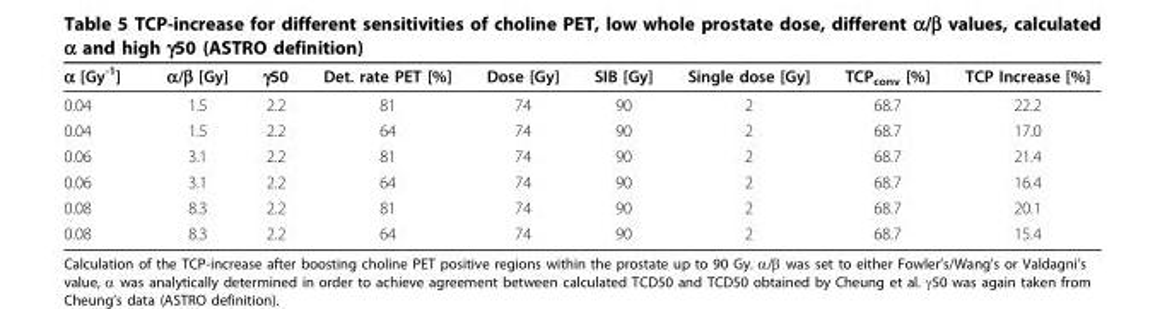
<table><thead><tr><td>α [Gy<sup>-1</sup>]</td><td>α/β [Gy]</td><td>γ50</td><td>Det. rate PET [%]</td><td>Dose [Gy]</td><td>SIB [Gy]</td><td>Single dose [Gy]</td><td>TCP<sub>conv</sub> [%]</td><td>TCP Increase [%]</td></tr></thead><tbody><tr><td>0.04</td><td>1.5</td><td>2.2</td><td>81</td><td>74</td><td>90</td><td>2</td><td>68.7</td><td>22.2</td></tr><tr><td>0.04</td><td>1.5</td><td>2.2</td><td>64</td><td>74</td><td>90</td><td>2</td><td>68.7</td><td>17.0</td></tr><tr><td>0.06</td><td>3.1</td><td>2.2</td><td>81</td><td>74</td><td>90</td><td>2</td><td>68.7</td><td>21.4</td></tr><tr><td>0.06</td><td>3.1</td><td>2.2</td><td>64</td><td>74</td><td>90</td><td>2</td><td>68.7</td><td>16.4</td></tr><tr><td>0.08</td><td>8.3</td><td>2.2</td><td>81</td><td>74</td><td>90</td><td>2</td><td>68.7</td><td>20.1</td></tr><tr><td>0.08</td><td>8.3</td><td>2.2</td><td>64</td><td>74</td><td>90</td><td>2</td><td>68.7</td><td>15.4</td></tr></tbody></table>